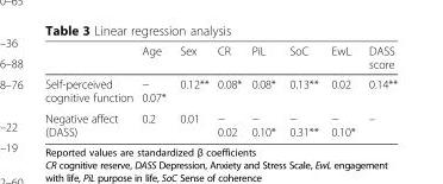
<table><thead><tr><td></td><td>Age</td><td>Sex</td><td>CR</td><td>PiL</td><td>SoC</td><td>EwL</td><td>DASS score</td></tr></thead><tbody><tr><td>Self-perceived cognitive function</td><td>− 0.07*</td><td>0.12**</td><td>0.08*</td><td>0.08*</td><td>0.13**</td><td>0.02</td><td>0.14**</td></tr><tr><td>Negative affect (DASS)</td><td>0.2</td><td>0.01</td><td>− 0.02</td><td>− 0.10*</td><td>− 0.31**</td><td>− 0.10*</td><td>–</td></tr></tbody></table>